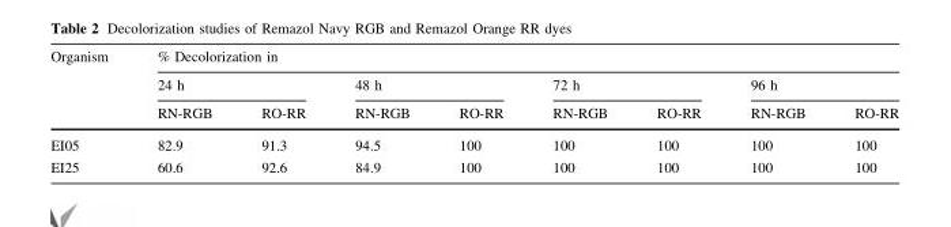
<table><thead><tr><td rowspan="3">Organism</td><td colspan="8">% Decolorization in</td></tr><tr><td colspan="2">24 h</td><td colspan="2">48 h</td><td colspan="2">72 h</td><td colspan="2">96 h</td></tr><tr><td>RN-RGB</td><td>RO-RR</td><td>RN-RGB</td><td>RO-RR</td><td>RN-RGB</td><td>RO-RR</td><td>RN-RGB</td><td>RO-RR</td></tr></thead><tbody><tr><td>EI05</td><td>82.9</td><td>91.3</td><td>94.5</td><td>100</td><td>100</td><td>100</td><td>100</td><td>100</td></tr><tr><td>EI25</td><td>60.6</td><td>92.6</td><td>84.9</td><td>100</td><td>100</td><td>100</td><td>100</td><td>100</td></tr></tbody></table>